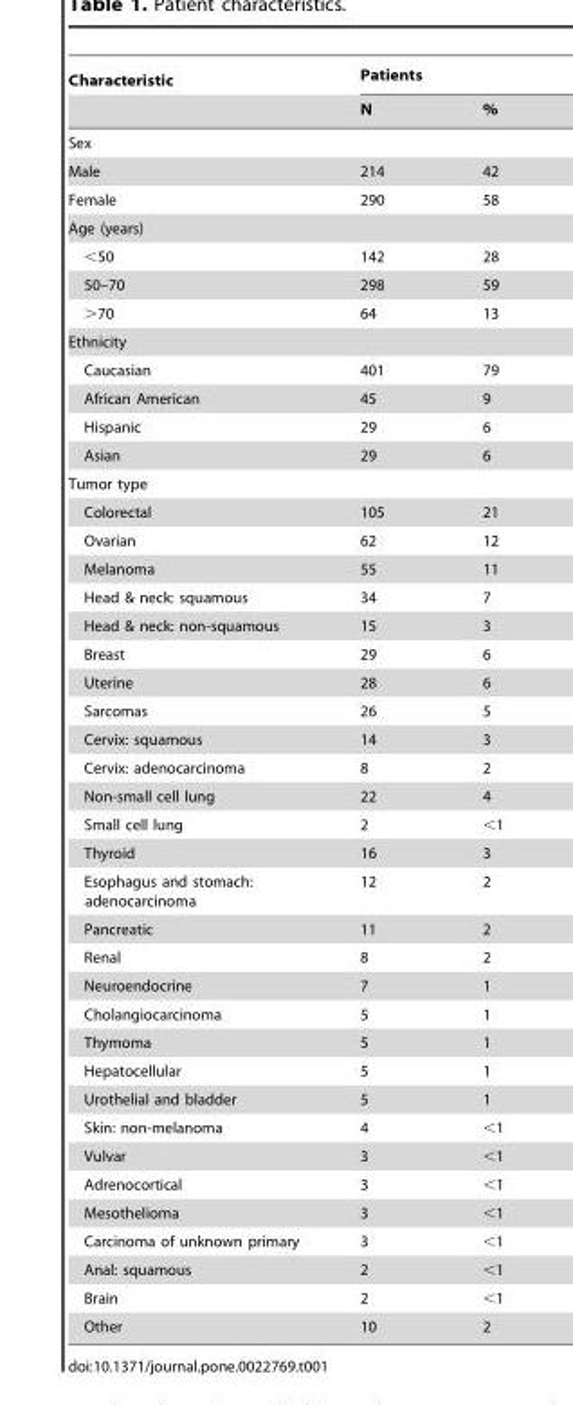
<table><thead><tr><td rowspan="2">Characteristic</td><td colspan="2">Patients</td></tr><tr><td>N</td><td>%</td></tr></thead><tbody><tr><td colspan="3">Sex</td></tr><tr><td>Male</td><td>214</td><td>42</td></tr><tr><td>Female</td><td>290</td><td>58</td></tr><tr><td colspan="3">Age (years)</td></tr><tr><td>&lt;50</td><td>142</td><td>28</td></tr><tr><td>50–70</td><td>298</td><td>59</td></tr><tr><td>&gt;70</td><td>64</td><td>13</td></tr><tr><td colspan="3">Ethnicity</td></tr><tr><td>Caucasian</td><td>401</td><td>79</td></tr><tr><td>African American</td><td>45</td><td>9</td></tr><tr><td>Hispanic</td><td>29</td><td>6</td></tr><tr><td>Asian</td><td>29</td><td>6</td></tr><tr><td colspan="3">Tumor type</td></tr><tr><td>Colorectal</td><td>105</td><td>21</td></tr><tr><td>Ovarian</td><td>62</td><td>12</td></tr><tr><td>Melanoma</td><td>55</td><td>11</td></tr><tr><td>Head &amp; neck: squamous</td><td>34</td><td>7</td></tr><tr><td>Head &amp; neck: non-squamous</td><td>15</td><td>3</td></tr><tr><td>Breast</td><td>29</td><td>6</td></tr><tr><td>Uterine</td><td>28</td><td>6</td></tr><tr><td>Sarcomas</td><td>26</td><td>5</td></tr><tr><td>Cervix: squamous</td><td>14</td><td>3</td></tr><tr><td>Cervix: adenocarcinoma</td><td>8</td><td>2</td></tr><tr><td>Non-small cell lung</td><td>22</td><td>4</td></tr><tr><td>Small cell lung</td><td>2</td><td>&lt;1</td></tr><tr><td>Thyroid</td><td>16</td><td>3</td></tr><tr><td>Esophagus and stomach: adenocarcinoma</td><td>12</td><td>2</td></tr><tr><td>Pancreatic</td><td>11</td><td>2</td></tr><tr><td>Renal</td><td>8</td><td>2</td></tr><tr><td>Neuroendocrine</td><td>7</td><td>1</td></tr><tr><td>Cholangiocarcinoma</td><td>5</td><td>1</td></tr><tr><td>Thymoma</td><td>5</td><td>1</td></tr><tr><td>Hepatocellular</td><td>5</td><td>1</td></tr><tr><td>Urothelial and bladder</td><td>5</td><td>1</td></tr><tr><td>Skin: non-melanoma</td><td>4</td><td>&lt;1</td></tr><tr><td>Vulvar</td><td>3</td><td>&lt;1</td></tr><tr><td>Adrenocortical</td><td>3</td><td>&lt;1</td></tr><tr><td>Mesothelioma</td><td>3</td><td>&lt;1</td></tr><tr><td>Carcinoma of unknown primary</td><td>3</td><td>&lt;1</td></tr><tr><td>Anal: squamous</td><td>2</td><td>&lt;1</td></tr><tr><td>Brain</td><td>2</td><td>&lt;1</td></tr><tr><td>Other</td><td>10</td><td>2</td></tr></tbody></table>